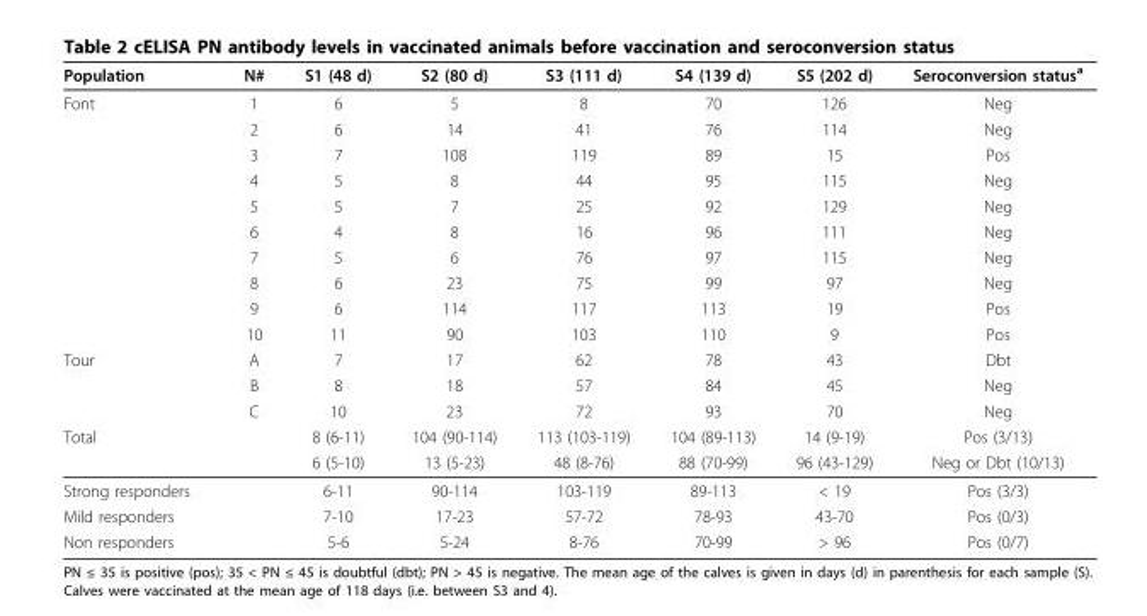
<table><thead><tr><td>Population</td><td>N#</td><td>S1 (48 d)</td><td>S2 (80 d)</td><td>S3 (111 d)</td><td>S4 (139 d)</td><td>S5 (202 d)</td><td>Seroconversion status<sup>a</sup></td></tr></thead><tbody><tr><td rowspan="10">Font</td><td>1</td><td>6</td><td>5</td><td>8</td><td>70</td><td>126</td><td>Neg</td></tr><tr><td>2</td><td>6</td><td>14</td><td>41</td><td>76</td><td>114</td><td>Neg</td></tr><tr><td>3</td><td>7</td><td>108</td><td>119</td><td>89</td><td>15</td><td>Pos</td></tr><tr><td>4</td><td>5</td><td>8</td><td>44</td><td>95</td><td>115</td><td>Neg</td></tr><tr><td>5</td><td>5</td><td>7</td><td>25</td><td>92</td><td>129</td><td>Neg</td></tr><tr><td>6</td><td>4</td><td>8</td><td>16</td><td>96</td><td>111</td><td>Neg</td></tr><tr><td>7</td><td>5</td><td>6</td><td>76</td><td>97</td><td>115</td><td>Neg</td></tr><tr><td>8</td><td>6</td><td>23</td><td>75</td><td>99</td><td>97</td><td>Neg</td></tr><tr><td>9</td><td>6</td><td>114</td><td>117</td><td>113</td><td>19</td><td>Pos</td></tr><tr><td>10</td><td>11</td><td>90</td><td>103</td><td>110</td><td>9</td><td>Pos</td></tr><tr><td rowspan="3">Tour</td><td>A</td><td>7</td><td>17</td><td>62</td><td>78</td><td>43</td><td>Dbt</td></tr><tr><td>B</td><td>8</td><td>18</td><td>57</td><td>84</td><td>45</td><td>Neg</td></tr><tr><td>C</td><td>10</td><td>23</td><td>72</td><td>93</td><td>70</td><td>Neg</td></tr><tr><td rowspan="2">Total</td><td></td><td>8 (6-11)</td><td>104 (90-114)</td><td>113 (103-119)</td><td>104 (89-113)</td><td>14 (9-19)</td><td>Pos (3/13)</td></tr><tr><td></td><td>6 (5-10)</td><td>13 (5-23)</td><td>48 (8-76)</td><td>88 (70-99)</td><td>96 (43-129)</td><td>Neg or Dbt (10/13)</td></tr><tr><td>Strong responders</td><td></td><td>6-11</td><td>90-114</td><td>103-119</td><td>89-113</td><td>&lt; 19</td><td>Pos (3/3)</td></tr><tr><td>Mild responders</td><td></td><td>7-10</td><td>17-23</td><td>57-72</td><td>78-93</td><td>43-70</td><td>Pos (0/3)</td></tr><tr><td>Non responders</td><td></td><td>5-6</td><td>5-24</td><td>8-76</td><td>70-99</td><td>&gt; 96</td><td>Pos (0/7)</td></tr></tbody></table>